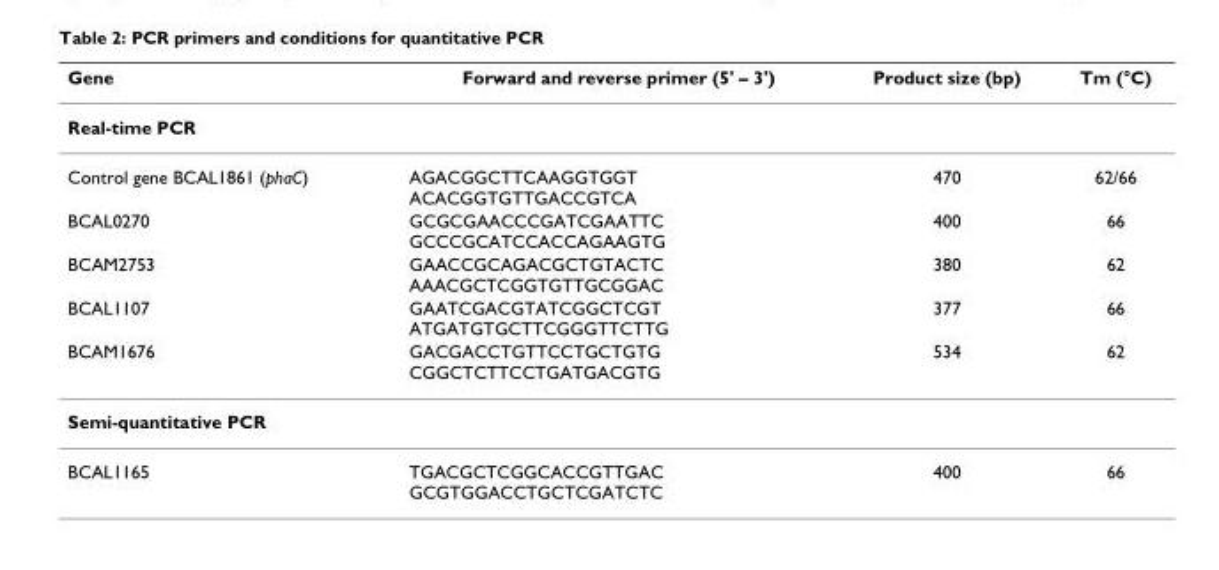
<table><thead><tr><td>Gene</td><td>Forward and reverse primer (5&#x27; – 3&#x27;)</td><td>Product size (bp)</td><td>Tm (°C)</td></tr></thead><tbody><tr><td colspan="4">Real-time PCR</td></tr><tr><td>Control gene BCAL1861 (phaC)</td><td>AGACGGCTTCAAGGTGGT ACACGGTGTTGACCGTCA</td><td>470</td><td>62/66</td></tr><tr><td>BCAL0270</td><td>GCGCGAACCCGATCGAATTC GCCCGCATCCACCAGAAGTG</td><td>400</td><td>66</td></tr><tr><td>BCAM2753</td><td>GAACCGCAGACGCTGTACTC AAACGCTCGGTGTTGCGGAC</td><td>380</td><td>62</td></tr><tr><td>BCAL1107</td><td>GAATCGACGTATCGGCTCGT ATGATGTGCTTCGGGTTCTTG</td><td>377</td><td>66</td></tr><tr><td>BCAM1676</td><td>GACGACCTGTTCCTGCTGTG CGGCTCTTCCTGATGACGTG</td><td>534</td><td>62</td></tr><tr><td colspan="4">Semi-quantitative PCR</td></tr><tr><td>BCAL1165</td><td>TGACGCTCGGCACCGTTGAC GCGTGGACCTGCTCGATCTC</td><td>400</td><td>66</td></tr></tbody></table>